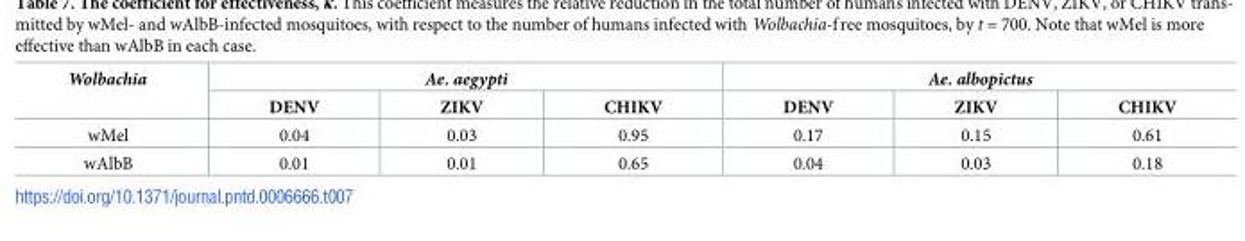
<table><thead><tr><td rowspan="2">Wolbachia</td><td colspan="3">Ae. aegypti</td><td colspan="3">Ae. albopictus</td></tr><tr><td>DENV</td><td>ZIKV</td><td>CHIKV</td><td>DENV</td><td>ZIKV</td><td>CHIKV</td></tr></thead><tbody><tr><td>wMel</td><td>0.04</td><td>0.03</td><td>0.95</td><td>0.17</td><td>0.15</td><td>0.61</td></tr><tr><td>wAlbB</td><td>0.01</td><td>0.01</td><td>0.65</td><td>0.04</td><td>0.03</td><td>0.18</td></tr></tbody></table>